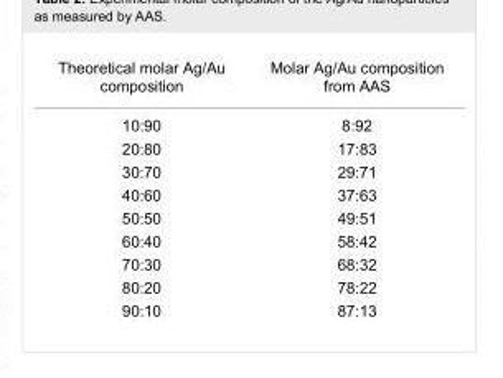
<table><tbody><tr><td>Theoretical molar Ag/Au composition</td><td>Molar Ag/Au composition from AAS</td></tr><tr><td>10:90</td><td>8:92</td></tr><tr><td>20:80</td><td>17:83</td></tr><tr><td>30:70</td><td>29:71</td></tr><tr><td>40:60</td><td>37:63</td></tr><tr><td>50:50</td><td>49:51</td></tr><tr><td>60:40</td><td>58:42</td></tr><tr><td>70:30</td><td>68:32</td></tr><tr><td>80:20</td><td>78:22</td></tr><tr><td>90:10</td><td>87:13</td></tr></tbody></table>